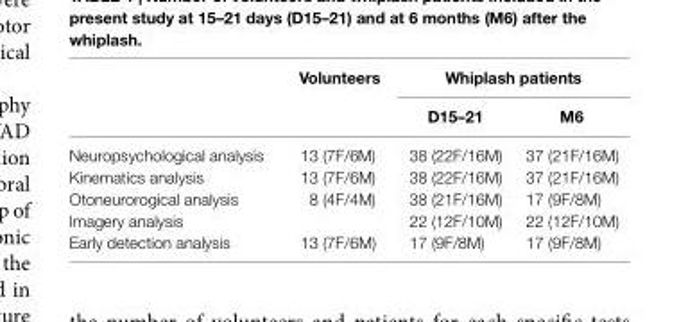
<table><thead><tr><td rowspan="2"></td><td rowspan="2">Volunteers</td><td colspan="2">Whiplash patients</td></tr><tr><td>D15–21</td><td>M6</td></tr></thead><tbody><tr><td>Neuropsychological analysis</td><td>13 (7F/6M)</td><td>38 (22F/16M)</td><td>37 (21F/16M)</td></tr><tr><td>Kinematics analysis</td><td>13 (7F/6M)</td><td>38 (22F/16M)</td><td>37 (21F/16M)</td></tr><tr><td>Otoneurorogical analysis</td><td>8 (4F/4M)</td><td>38 (21F/16M)</td><td>17 (9F/8M)</td></tr><tr><td>Imagery analysis</td><td></td><td>22 (12F/10M)</td><td>22 (12F/10M)</td></tr><tr><td>Early detection analysis</td><td>13 (7F/6M)</td><td>17 (9F/8M)</td><td>17 (9F/8M)</td></tr></tbody></table>